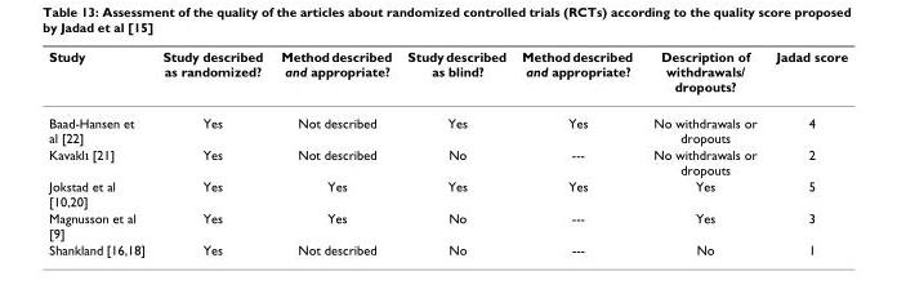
<table><thead><tr><td>Study</td><td>Study described as randomized?</td><td>Method described and appropriate?</td><td>Study described as blind?</td><td>Method described and appropriate?</td><td>Description of withdrawals/ dropouts?</td><td>Jadad score</td></tr></thead><tbody><tr><td>Baad-Hansen et al [22]</td><td>Yes</td><td>Not described</td><td>Yes</td><td>Yes</td><td>No withdrawals or dropouts</td><td>4</td></tr><tr><td>Kavaklı [21]</td><td>Yes</td><td>Not described</td><td>No</td><td>---</td><td>No withdrawals or dropouts</td><td>2</td></tr><tr><td>Jokstad et al [10,20]</td><td>Yes</td><td>Yes</td><td>Yes</td><td>Yes</td><td>Yes</td><td>5</td></tr><tr><td>Magnusson et al [9]</td><td>Yes</td><td>Yes</td><td>No</td><td>---</td><td>Yes</td><td>3</td></tr><tr><td>Shankland [16,18]</td><td>Yes</td><td>Not described</td><td>No</td><td>---</td><td>No</td><td>1</td></tr></tbody></table>